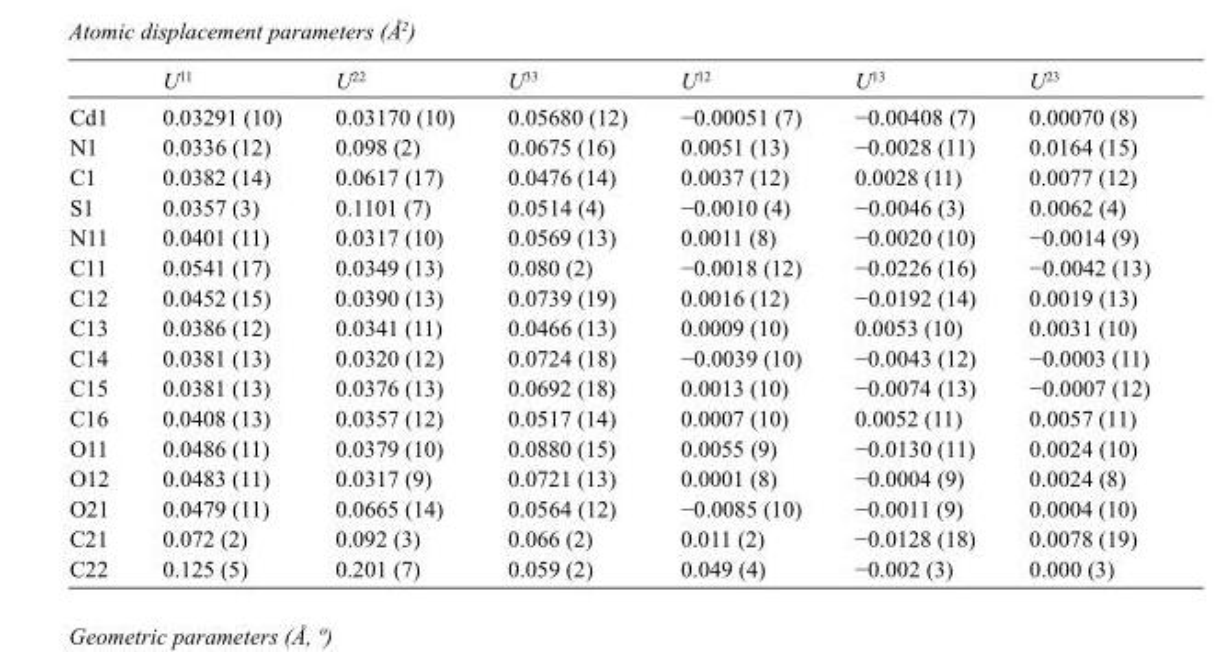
<table><thead><tr><td></td><td>U<sup>11</sup></td><td>U<sup>22</sup></td><td>U<sup>33</sup></td><td>U<sup>12</sup></td><td>U<sup>13</sup></td><td>U<sup>23</sup></td></tr></thead><tbody><tr><td>Cd1</td><td>0.03291 (10)</td><td>0.03170 (10)</td><td>0.05680 (12)</td><td>−0.00051 (7)</td><td>−0.00408 (7)</td><td>0.00070 (8)</td></tr><tr><td>N1</td><td>0.0336 (12)</td><td>0.098 (2)</td><td>0.0675 (16)</td><td>0.0051 (13)</td><td>−0.0028 (11)</td><td>0.0164 (15)</td></tr><tr><td>C1</td><td>0.0382 (14)</td><td>0.0617 (17)</td><td>0.0476 (14)</td><td>0.0037 (12)</td><td>0.0028 (11)</td><td>0.0077 (12)</td></tr><tr><td>S1</td><td>0.0357 (3)</td><td>0.1101 (7)</td><td>0.0514 (4)</td><td>−0.0010 (4)</td><td>−0.0046 (3)</td><td>0.0062 (4)</td></tr><tr><td>N11</td><td>0.0401 (11)</td><td>0.0317 (10)</td><td>0.0569 (13)</td><td>0.0011 (8)</td><td>−0.0020 (10)</td><td>−0.0014 (9)</td></tr><tr><td>C11</td><td>0.0541 (17)</td><td>0.0349 (13)</td><td>0.080 (2)</td><td>−0.0018 (12)</td><td>−0.0226 (16)</td><td>−0.0042 (13)</td></tr><tr><td>C12</td><td>0.0452 (15)</td><td>0.0390 (13)</td><td>0.0739 (19)</td><td>0.0016 (12)</td><td>−0.0192 (14)</td><td>0.0019 (13)</td></tr><tr><td>C13</td><td>0.0386 (12)</td><td>0.0341 (11)</td><td>0.0466 (13)</td><td>0.0009 (10)</td><td>0.0053 (10)</td><td>0.0031 (10)</td></tr><tr><td>C14</td><td>0.0381 (13)</td><td>0.0320 (12)</td><td>0.0724 (18)</td><td>−0.0039 (10)</td><td>−0.0043 (12)</td><td>−0.0003 (11)</td></tr><tr><td>C15</td><td>0.0381 (13)</td><td>0.0376 (13)</td><td>0.0692 (18)</td><td>0.0013 (10)</td><td>−0.0074 (13)</td><td>−0.0007 (12)</td></tr><tr><td>C16</td><td>0.0408 (13)</td><td>0.0357 (12)</td><td>0.0517 (14)</td><td>0.0007 (10)</td><td>0.0052 (11)</td><td>0.0057 (11)</td></tr><tr><td>O11</td><td>0.0486 (11)</td><td>0.0379 (10)</td><td>0.0880 (15)</td><td>0.0055 (9)</td><td>−0.0130 (11)</td><td>0.0024 (10)</td></tr><tr><td>O12</td><td>0.0483 (11)</td><td>0.0317 (9)</td><td>0.0721 (13)</td><td>0.0001 (8)</td><td>−0.0004 (9)</td><td>0.0024 (8)</td></tr><tr><td>O21</td><td>0.0479 (11)</td><td>0.0665 (14)</td><td>0.0564 (12)</td><td>−0.0085 (10)</td><td>−0.0011 (9)</td><td>0.0004 (10)</td></tr><tr><td>C21</td><td>0.072 (2)</td><td>0.092 (3)</td><td>0.066 (2)</td><td>0.011 (2)</td><td>−0.0128 (18)</td><td>0.0078 (19)</td></tr><tr><td>C22</td><td>0.125 (5)</td><td>0.201 (7)</td><td>0.059 (2)</td><td>0.049 (4)</td><td>−0.002 (3)</td><td>0.000 (3)</td></tr></tbody></table>